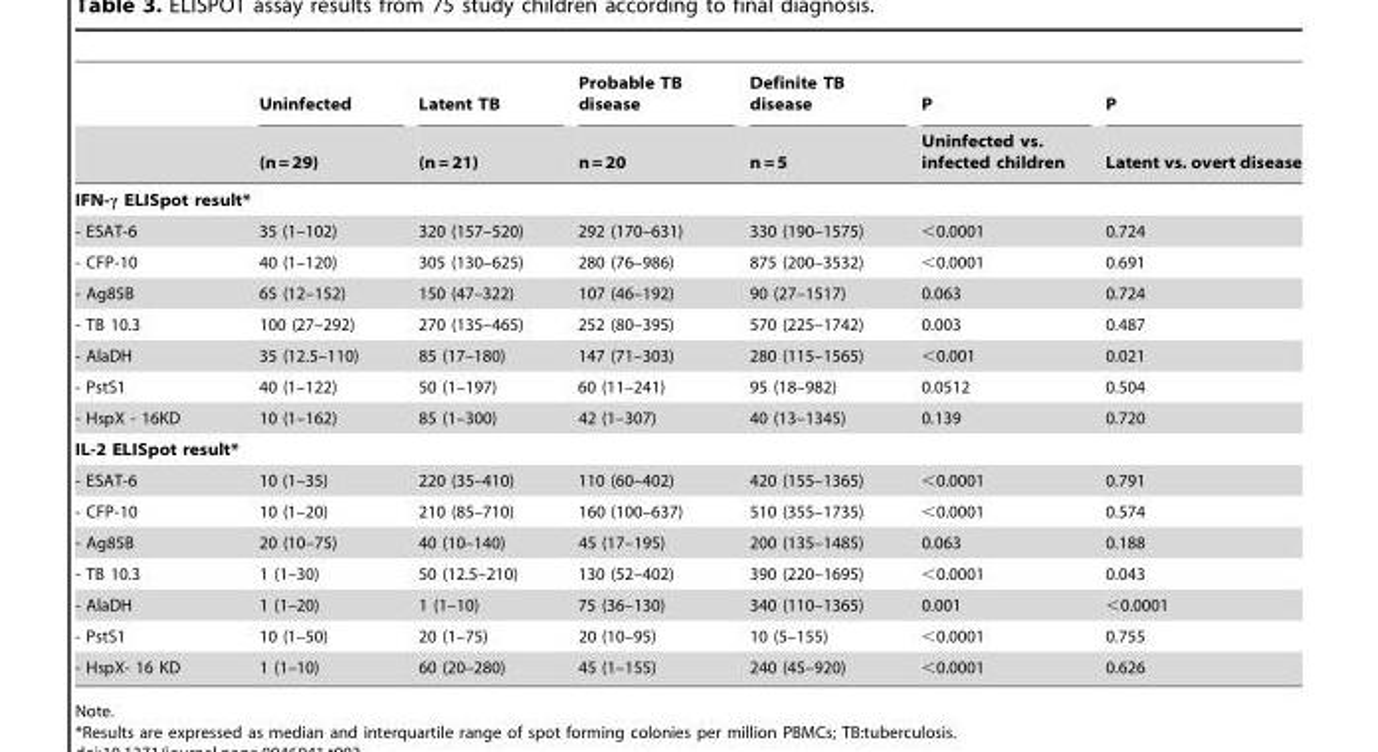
<table><thead><tr><td rowspan="2"></td><td rowspan="2">Uninfected (n = 29)</td><td rowspan="2">Latent TB (n = 21)</td><td rowspan="2">Probable TB disease n = 20</td><td rowspan="2">Definite TB disease n = 5</td><td rowspan="2">P Uninfected vs. infected children</td><td rowspan="2">P Latent vs. overt disease</td></tr><tr></tr></thead><tbody><tr><td colspan="7">IFN-γ ELISpot result*</td></tr><tr><td>- ESAT-6</td><td>35 (1–102)</td><td>320 (157–520)</td><td>292 (170–631)</td><td>330 (190–1575)</td><td>&lt;0.0001</td><td>0.724</td></tr><tr><td>- CFP-10</td><td>40 (1–120)</td><td>305 (130–625)</td><td>280 (76–986)</td><td>875 (200–3532)</td><td>&lt;0.0001</td><td>0.691</td></tr><tr><td>- Ag85B</td><td>65 (12–152)</td><td>150 (47–322)</td><td>107 (46–192)</td><td>90 (27–1517)</td><td>0.063</td><td>0.724</td></tr><tr><td>- TB 10.3</td><td>100 (27–292)</td><td>270 (135–465)</td><td>252 (80–395)</td><td>570 (225–1742)</td><td>0.003</td><td>0.487</td></tr><tr><td>- AlaDH</td><td>35 (12.5–110)</td><td>85 (17–180)</td><td>147 (71–303)</td><td>280 (115–1565)</td><td>&lt;0.001</td><td>0.021</td></tr><tr><td>- PstS1</td><td>40 (1–122)</td><td>50 (1–197)</td><td>60 (11–241)</td><td>95 (18–982)</td><td>0.0512</td><td>0.504</td></tr><tr><td>- HspX - 16KD</td><td>10 (1–162)</td><td>85 (1–300)</td><td>42 (1–307)</td><td>40 (13–1345)</td><td>0.139</td><td>0.720</td></tr><tr><td colspan="7">IL-2 ELISpot result*</td></tr><tr><td>- ESAT-6</td><td>10 (1–35)</td><td>220 (35–410)</td><td>110 (60–402)</td><td>420 (155–1365)</td><td>&lt;0.0001</td><td>0.791</td></tr><tr><td>- CFP-10</td><td>10 (1–20)</td><td>210 (85–710)</td><td>160 (100–637)</td><td>510 (355–1735)</td><td>&lt;0.0001</td><td>0.574</td></tr><tr><td>- Ag85B</td><td>20 (10–75)</td><td>40 (10–140)</td><td>45 (17–195)</td><td>200 (135–1485)</td><td>0.063</td><td>0.188</td></tr><tr><td>- TB 10.3</td><td>1 (1–30)</td><td>50 (12.5–210)</td><td>130 (52–402)</td><td>390 (220–1695)</td><td>&lt;0.0001</td><td>0.043</td></tr><tr><td>- AlaDH</td><td>1 (1–20)</td><td>1 (1–10)</td><td>75 (36–130)</td><td>340 (110–1365)</td><td>0.001</td><td>&lt;0.0001</td></tr><tr><td>- PstS1</td><td>10 (1–50)</td><td>20 (1–75)</td><td>20 (10–95)</td><td>10 (5–155)</td><td>&lt;0.0001</td><td>0.755</td></tr><tr><td>- HspX- 16 KD</td><td>1 (1–10)</td><td>60 (20–280)</td><td>45 (1–155)</td><td>240 (45–920)</td><td>&lt;0.0001</td><td>0.626</td></tr></tbody></table>